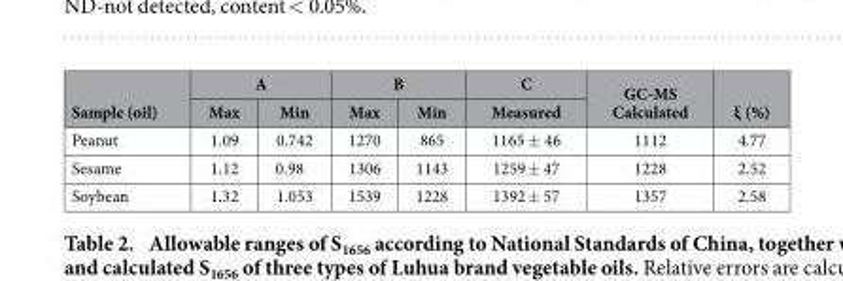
<table><thead><tr><td rowspan="2">Sample (oil)</td><td colspan="2">A</td><td colspan="2">B</td><td rowspan="2">C Measured</td><td rowspan="2">GC-MS Calculated</td><td rowspan="2">ξ (%)</td></tr><tr><td>Max</td><td>Min</td><td>Max</td><td>Min</td></tr></thead><tbody><tr><td>Peanut</td><td>1.09</td><td>0.742</td><td>1270</td><td>865</td><td>1165 ± 46</td><td>1112</td><td>4.77</td></tr><tr><td>Sesame</td><td>1.12</td><td>0.98</td><td>1306</td><td>1143</td><td>1259 ± 47</td><td>1228</td><td>2.52</td></tr><tr><td>Soybean</td><td>1.32</td><td>1.053</td><td>1539</td><td>1228</td><td>1392 ± 57</td><td>1357</td><td>2.58</td></tr></tbody></table>